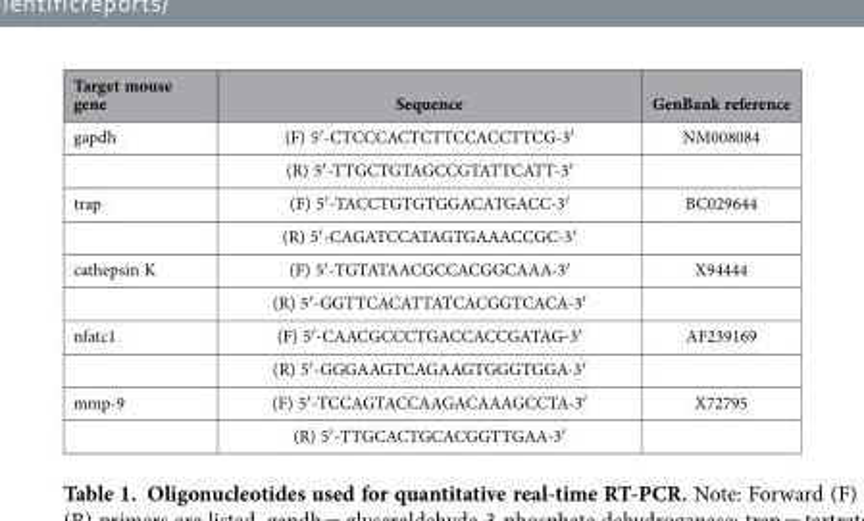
<table><thead><tr><td>Target mouse gene</td><td>Sequence</td><td>GenBank reference</td></tr></thead><tbody><tr><td rowspan="2">gapdh</td><td>(F) 5′ -CTCCCACTCTTCCACCTTCG-3′</td><td>NM008084</td></tr><tr><td>(R) 5′ -TTGCTGTAGCCGTATTCATT-3′</td><td></td></tr><tr><td rowspan="2">trap</td><td>(F) 5′ -TACCTGTGTGGACATGACC-3′</td><td>BC029644</td></tr><tr><td>(R) 5′ -CAGATCCATAGTGAAACCGC-3′</td><td></td></tr><tr><td rowspan="2">cathepsin K</td><td>(F) 5′ -TGTATAACGCCACGGCAAA-3′</td><td>X94444</td></tr><tr><td>(R) 5′ -GGTTCACATTATCACGGTCACA-3′</td><td></td></tr><tr><td rowspan="2">nfatc1</td><td>(F) 5′ -CAACGCCCTGACCACCGATAG-3′</td><td>AF239169</td></tr><tr><td>(R) 5′ -GGGAAGTCAGAAGTGGGTGGA-3′</td><td></td></tr><tr><td rowspan="2">mmp-9</td><td>(F) 5′ -TCCAGTACCAAGACAAAGCCTA-3′</td><td>X72795</td></tr><tr><td>(R) 5′ -TTGCACTGCACGGTTGAA-3′</td><td></td></tr></tbody></table>